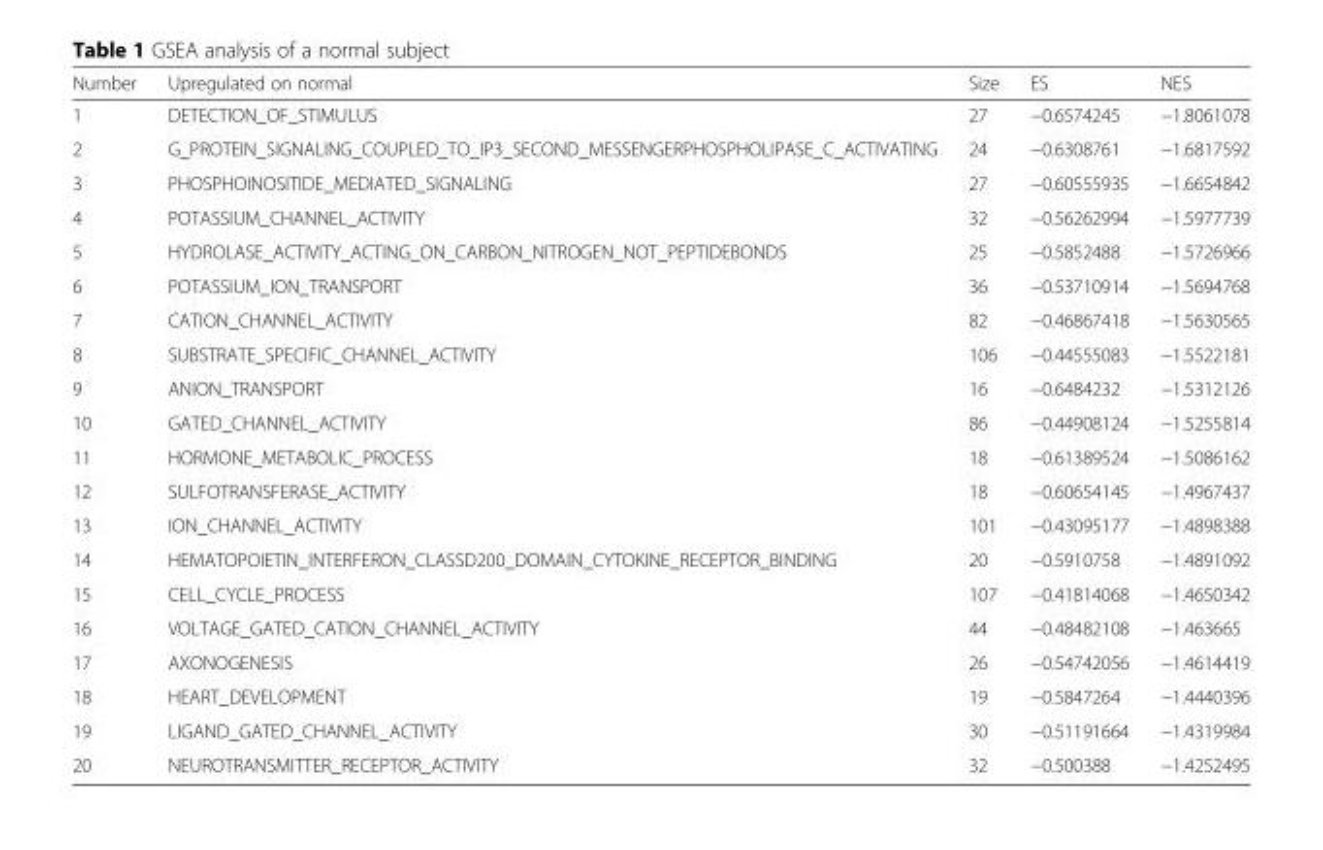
<table><thead><tr><td>Number</td><td>Upregulated on normal</td><td>Size</td><td>ES</td><td>NES</td></tr></thead><tbody><tr><td>1</td><td>DETECTION_OF_STIMULUS</td><td>27</td><td>−0.6574245</td><td>−1.8061078</td></tr><tr><td>2</td><td>G_PROTEIN_SIGNALING_COUPLED_TO_IP3_SECOND_MESSENGERPHOSPHOLIPASE_C_ACTIVATING</td><td>24</td><td>−0.6308761</td><td>−1.6817592</td></tr><tr><td>3</td><td>PHOSPHOINOSITIDE_MEDIATED_SIGNALING</td><td>27</td><td>−0.60555935</td><td>−1.6654842</td></tr><tr><td>4</td><td>POTASSIUM_CHANNEL_ACTIVITY</td><td>32</td><td>−0.56262994</td><td>−1.5977739</td></tr><tr><td>5</td><td>HYDROLASE_ACTIVITY_ACTING_ON_CARBON_NITROGEN_NOT_PEPTIDEBONDS</td><td>25</td><td>−0.5852488</td><td>−1.5726966</td></tr><tr><td>6</td><td>POTASSIUM_ION_TRANSPORT</td><td>36</td><td>−0.53710914</td><td>−1.5694768</td></tr><tr><td>7</td><td>CATION_CHANNEL_ACTIVITY</td><td>82</td><td>−0.46867418</td><td>−1.5630565</td></tr><tr><td>8</td><td>SUBSTRATE_SPECIFIC_CHANNEL_ACTIVITY</td><td>106</td><td>−0.44555083</td><td>−1.5522181</td></tr><tr><td>9</td><td>ANION_TRANSPORT</td><td>16</td><td>−0.6484232</td><td>−1.5312126</td></tr><tr><td>10</td><td>GATED_CHANNEL_ACTIVITY</td><td>86</td><td>−0.44908124</td><td>−1.5255814</td></tr><tr><td>11</td><td>HORMONE_METABOLIC_PROCESS</td><td>18</td><td>−0.61389524</td><td>−1.5086162</td></tr><tr><td>12</td><td>SULFOTRANSFERASE_ACTIVITY</td><td>18</td><td>−0.60654145</td><td>−1.4967437</td></tr><tr><td>13</td><td>ION_CHANNEL_ACTIVITY</td><td>101</td><td>−0.43095177</td><td>−1.4898388</td></tr><tr><td>14</td><td>HEMATOPOIETIN_INTERFERON_CLASSD200_DOMAIN_CYTOKINE_RECEPTOR_BINDING</td><td>20</td><td>−0.5910758</td><td>−1.4891092</td></tr><tr><td>15</td><td>CELL_CYCLE_PROCESS</td><td>107</td><td>−0.41814068</td><td>−1.4650342</td></tr><tr><td>16</td><td>VOLTAGE_GATED_CATION_CHANNEL_ACTIVITY</td><td>44</td><td>−0.48482108</td><td>−1.463665</td></tr><tr><td>17</td><td>AXONOGENESIS</td><td>26</td><td>−0.54742056</td><td>−1.4614419</td></tr><tr><td>18</td><td>HEART_DEVELOPMENT</td><td>19</td><td>−0.5847264</td><td>−1.4440396</td></tr><tr><td>19</td><td>LIGAND_GATED_CHANNEL_ACTIVITY</td><td>30</td><td>−0.51191664</td><td>−1.4319984</td></tr><tr><td>20</td><td>NEUROTRANSMITTER_RECEPTOR_ACTIVITY</td><td>32</td><td>−0.500388</td><td>−1.4252495</td></tr></tbody></table>